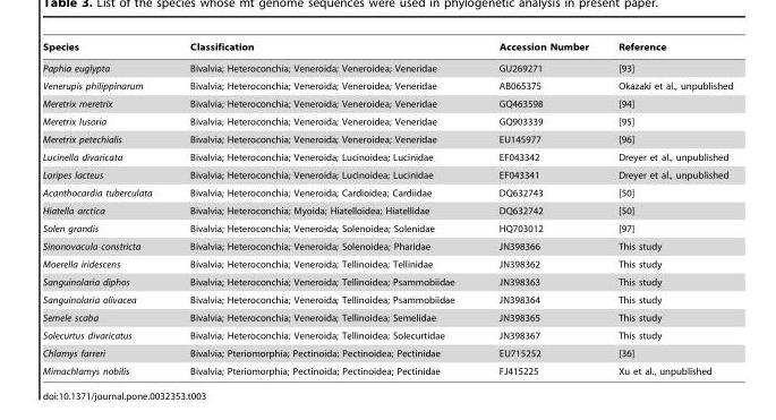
<table><thead><tr><td>Species</td><td>Classification</td><td>Accession Number</td><td>Reference</td></tr></thead><tbody><tr><td>Paphia euglypta</td><td>Bivalvia; Heteroconchia; Veneroida; Veneroidea; Veneridae</td><td>GU269271</td><td>[93]</td></tr><tr><td>Venerupis philippinarum</td><td>Bivalvia; Heteroconchia; Veneroida; Veneroidea; Veneridae</td><td>AB065375</td><td>Okazaki et al., unpublished</td></tr><tr><td>Meretrix meretrix</td><td>Bivalvia; Heteroconchia; Veneroida; Veneroidea; Veneridae</td><td>GQ463598</td><td>[94]</td></tr><tr><td>Meretrix lusoria</td><td>Bivalvia; Heteroconchia; Veneroida; Veneroidea; Veneridae</td><td>GQ903339</td><td>[95]</td></tr><tr><td>Meretrix petechialis</td><td>Bivalvia; Heteroconchia; Veneroida; Veneroidea; Veneridae</td><td>EU145977</td><td>[96]</td></tr><tr><td>Lucinella divaricata</td><td>Bivalvia; Heteroconchia; Veneroida; Lucinoidea; Lucinidae</td><td>EF043342</td><td>Dreyer et al., unpublished</td></tr><tr><td>Loripes lacteus</td><td>Bivalvia; Heteroconchia; Veneroida; Lucinoidea; Lucinidae</td><td>EF043341</td><td>Dreyer et al., unpublished</td></tr><tr><td>Acanthocardia tuberculata</td><td>Bivalvia; Heteroconchia; Veneroida; Cardioidea; Cardiidae</td><td>DQ632743</td><td>[50]</td></tr><tr><td>Hiatella arctica</td><td>Bivalvia; Heteroconchia; Myoida; Hiatelloidea; Hiatellidae</td><td>DQ632742</td><td>[50]</td></tr><tr><td>Solen grandis</td><td>Bivalvia; Heteroconchia; Veneroida; Solenoidea; Solenidae</td><td>HQ703012</td><td>[97]</td></tr><tr><td>Sinonovacula constricta</td><td>Bivalvia; Heteroconchia; Veneroida; Solenoidea; Pharidae</td><td>JN398366</td><td>This study</td></tr><tr><td>Moerella iridescens</td><td>Bivalvia; Heteroconchia; Veneroida; Tellinoidea; Tellinidae</td><td>JN398362</td><td>This study</td></tr><tr><td>Sanguinolaria diphos</td><td>Bivalvia; Heteroconchia; Veneroida; Tellinoidea; Psammobiidae</td><td>JN398363</td><td>This study</td></tr><tr><td>Sanguinolaria olivacea</td><td>Bivalvia; Heteroconchia; Veneroida; Tellinoidea; Psammobiidae</td><td>JN398364</td><td>This study</td></tr><tr><td>Semele scaba</td><td>Bivalvia; Heteroconchia; Veneroida; Tellinoidea; Semelidae</td><td>JN398365</td><td>This study</td></tr><tr><td>Solecurtus divaricatus</td><td>Bivalvia; Heteroconchia; Veneroida; Tellinoidea; Solecurtidae</td><td>JN398367</td><td>This study</td></tr><tr><td>Chlamys farreri</td><td>Bivalvia; Pteriomorphia; Pectinoida; Pectinoidea; Pectinidae</td><td>EU715252</td><td>[36]</td></tr><tr><td>Mimachlamys nobilis</td><td>Bivalvia; Pteriomorphia; Pectinoida; Pectinoidea; Pectinidae</td><td>FJ415225</td><td>Xu et al., unpublished</td></tr></tbody></table>